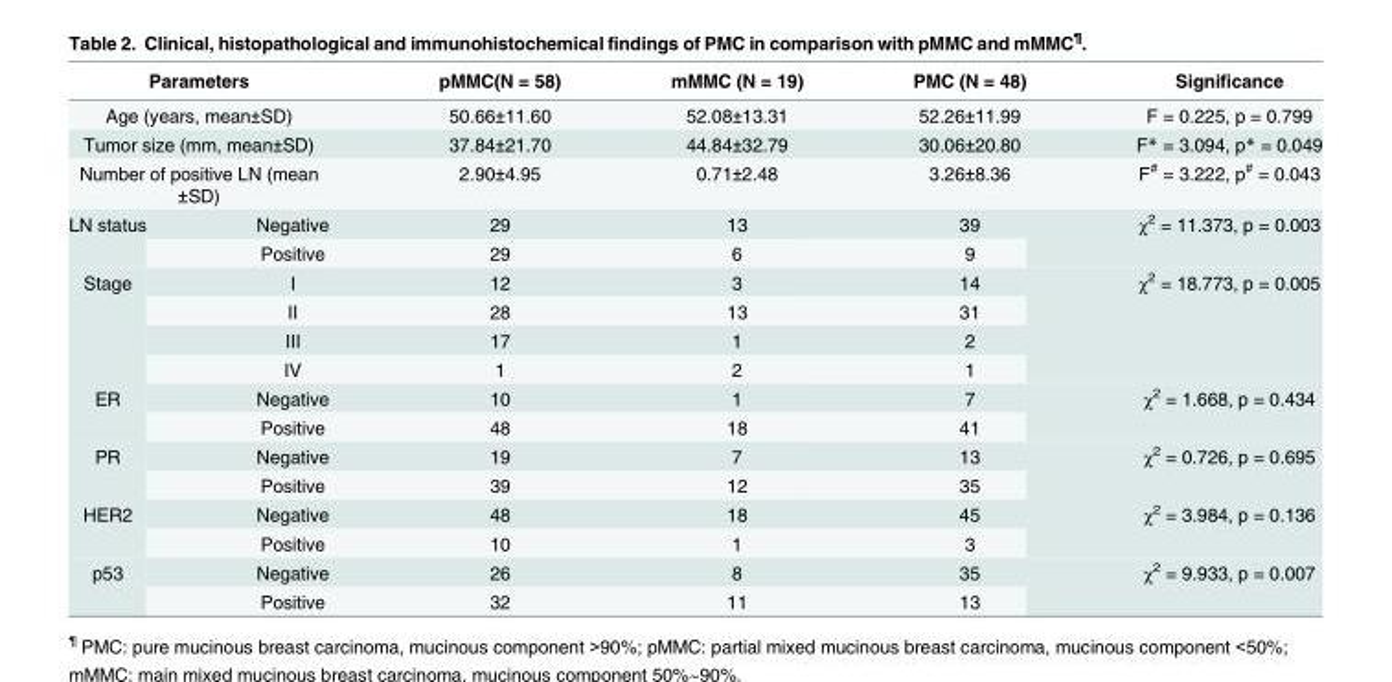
<table><thead><tr><td colspan="2">Parameters</td><td>pMMC(N = 58)</td><td>mMMC (N = 19)</td><td>PMC (N = 48)</td><td>Significance</td></tr></thead><tbody><tr><td colspan="2">Age (years, mean±SD)</td><td>50.66±11.60</td><td>52.08±13.31</td><td>52.26±11.99</td><td>F = 0.225, p = 0.799</td></tr><tr><td colspan="2">Tumor size (mm, mean±SD)</td><td>37.84±21.70</td><td>44.84±32.79</td><td>30.06±20.80</td><td>F* = 3.094, p* = 0.049</td></tr><tr><td colspan="2">Number of positive LN (mean ±SD)</td><td>2.90±4.95</td><td>0.71±2.48</td><td>3.26±8.36</td><td>F<sup>#</sup> = 3.222, p<sup>#</sup> = 0.043</td></tr><tr><td rowspan="2">LN status</td><td>Negative</td><td>29</td><td>13</td><td>39</td><td rowspan="2">χ<sup>2</sup> = 11.373, p = 0.003</td></tr><tr><td>Positive</td><td>29</td><td>6</td><td>9</td></tr><tr><td rowspan="4">Stage</td><td>I</td><td>12</td><td>3</td><td>14</td><td rowspan="4">χ<sup>2</sup> = 18.773, p = 0.005</td></tr><tr><td>II</td><td>28</td><td>13</td><td>31</td></tr><tr><td>III</td><td>17</td><td>1</td><td>2</td></tr><tr><td>IV</td><td>1</td><td>2</td><td>1</td></tr><tr><td rowspan="2">ER</td><td>Negative</td><td>10</td><td>1</td><td>7</td><td rowspan="2">χ<sup>2</sup> = 1.668, p = 0.434</td></tr><tr><td>Positive</td><td>48</td><td>18</td><td>41</td></tr><tr><td rowspan="2">PR</td><td>Negative</td><td>19</td><td>7</td><td>13</td><td rowspan="2">χ<sup>2</sup> = 0.726, p = 0.695</td></tr><tr><td>Positive</td><td>39</td><td>12</td><td>35</td></tr><tr><td rowspan="2">HER2</td><td>Negative</td><td>48</td><td>18</td><td>45</td><td rowspan="2">χ<sup>2</sup> = 3.984, p = 0.136</td></tr><tr><td>Positive</td><td>10</td><td>1</td><td>3</td></tr><tr><td rowspan="2">p53</td><td>Negative</td><td>26</td><td>8</td><td>35</td><td rowspan="2">χ<sup>2</sup> = 9.933, p = 0.007</td></tr><tr><td>Positive</td><td>32</td><td>11</td><td>13</td></tr></tbody></table>